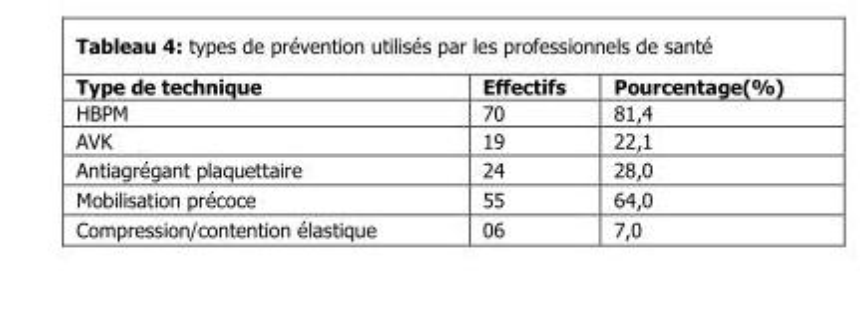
<table><thead><tr><td>Type de technique</td><td>Effectifs</td><td>Pourcentage(%)</td></tr></thead><tbody><tr><td>HBPM</td><td>70</td><td>81,4</td></tr><tr><td>AVK</td><td>19</td><td>22,1</td></tr><tr><td>Antiagrégant plaquettaire</td><td>24</td><td>28,0</td></tr><tr><td>Mobilisation précoce</td><td>55</td><td>64,0</td></tr><tr><td>Compression/contention élastique</td><td>06</td><td>7,0</td></tr></tbody></table>